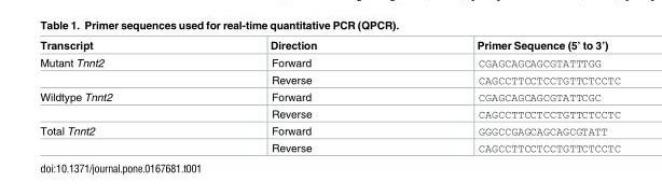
<table><thead><tr><td>Transcript</td><td>Direction</td><td>Primer Sequence (5’ to 3’)</td></tr></thead><tbody><tr><td rowspan="2">Mutant Tnnt2</td><td>Forward</td><td>CGAGCAGCAGCGTATTTGG</td></tr><tr><td>Reverse</td><td>CAGCCTTCCTCCTGTTCTCCTC</td></tr><tr><td rowspan="2">Wildtype Tnnt2</td><td>Forward</td><td>CGAGCAGCAGCGTATTCGC</td></tr><tr><td>Reverse</td><td>CAGCCTTCCTCCTGTTCTCCTC</td></tr><tr><td rowspan="2">Total Tnnt2</td><td>Forward</td><td>GGGCCGAGCAGCAGCGTATT</td></tr><tr><td>Reverse</td><td>CAGCCTTCCTCCTGTTCTCCTC</td></tr></tbody></table>